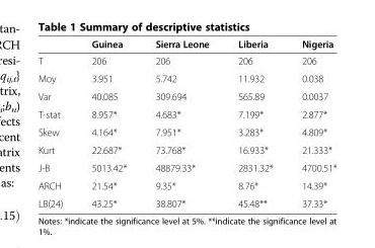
<table><thead><tr><td></td><td>Guinea</td><td>Sierra Leone</td><td>Liberia</td><td>Nigeria</td></tr></thead><tbody><tr><td>T</td><td>206</td><td>206</td><td>206</td><td>206</td></tr><tr><td>Moy</td><td>3.951</td><td>5.742</td><td>11.932</td><td>0.038</td></tr><tr><td>Var</td><td>40.085</td><td>309.694</td><td>565.89</td><td>0.0037</td></tr><tr><td>T-stat</td><td>8.957*</td><td>4.683*</td><td>7.199*</td><td>2.877*</td></tr><tr><td>Skew</td><td>4.164*</td><td>7.951*</td><td>3.283*</td><td>4.809*</td></tr><tr><td>Kurt</td><td>22.687*</td><td>73.768*</td><td>16.933*</td><td>21.333*</td></tr><tr><td>J-B</td><td>5013.42*</td><td>48879.33*</td><td>2831.32*</td><td>4700.51*</td></tr><tr><td>ARCH</td><td>21.54*</td><td>9.35*</td><td>8.76*</td><td>14.39*</td></tr><tr><td>LB(24)</td><td>43.25*</td><td>38.807*</td><td>45.48**</td><td>37.33*</td></tr></tbody></table>